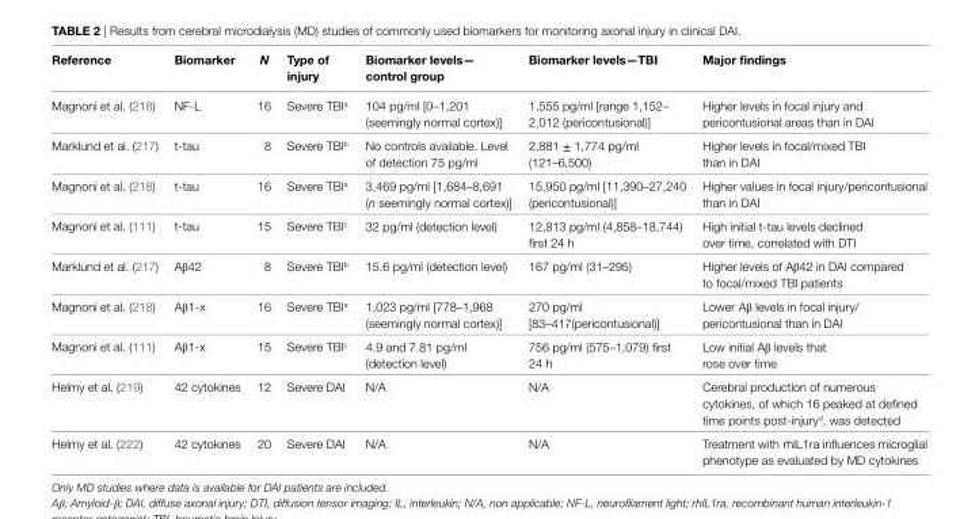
<table><thead><tr><td>Reference</td><td>Biomarker</td><td>N</td><td>Type of injury</td><td>Biomarker levels— control group</td><td>Biomarker levels—TBi</td><td>Major findings</td></tr></thead><tbody><tr><td>Magnoni et al. (218)</td><td>NF-L</td><td>16</td><td>Severe TBI<sup>a</sup></td><td>104 pg/ml [0–1,201 (seemingly normal cortex)]</td><td>1,555 pg/ml [range 1,152– 2,012 (pericontusional)]</td><td>Higher levels in focal injury and pericontusional areas than in DAI</td></tr><tr><td>Marklund et al. (217)</td><td>t-tau</td><td>8</td><td>Severe TBI<sup>b</sup></td><td>No controls available. Level of detection 75 pg/ml</td><td>2,881 ± 1,774 pg/ml (121–6,500)</td><td>Higher levels in focal/mixed TBI than in DAI</td></tr><tr><td>Magnoni et al. (218)</td><td>t-tau</td><td>16</td><td>Severe TBI<sup>a</sup></td><td>3,469 pg/ml [1,684–8,691 (n seemingly normal cortex)]</td><td>15,950 pg/ml [11,390–27,240 (pericontusional)]</td><td>Higher values in focal injury/pericontusional than in DAI</td></tr><tr><td>Magnoni et al. (111)</td><td>t-tau</td><td>15</td><td>Severe TBI<sup>c</sup></td><td>32 pg/ml (detection level)</td><td>12,813 pg/ml (4,858–18,744) first 24 h</td><td>High initial t-tau levels declined over time, correlated with DTI</td></tr><tr><td>Marklund et al. (217)</td><td>Aβ42</td><td>8</td><td>Severe TBI<sup>b</sup></td><td>15.6 pg/ml (detection level)</td><td>167 pg/ml (31–295)</td><td>Higher levels of Aβ42 in DAI compared to focal/mixed TBI patients</td></tr><tr><td>Magnoni et al. (218)</td><td>Aβ1-x</td><td>16</td><td>Severe TBI<sup>a</sup></td><td>1,023 pg/ml [778–1,968 (seemingly normal cortex)]</td><td>270 pg/ml [83–417(pericontusional)]</td><td>Lower Aβ levels in focal injury/ pericontusional than in DAI</td></tr><tr><td>Magnoni et al. (111)</td><td>Aβ1-x</td><td>15</td><td>Severe TBI<sup>c</sup></td><td>4.9 and 7.81 pg/ml (detection level)</td><td>756 pg/ml (575–1,079) first 24 h</td><td>Low initial Aβ levels that rose over time</td></tr><tr><td>Helmy et al. (219)</td><td>42 cytokines</td><td>12</td><td>Severe DAI</td><td>N/A</td><td>N/A</td><td>Cerebral production of numerous cytokines, of which 16 peaked at defined time points post-injury<sup>d</sup>, was detected</td></tr><tr><td>Helmy et al. (222)</td><td>42 cytokines</td><td>20</td><td>Severe DAI</td><td>N/A</td><td>N/A</td><td>Treatment with rhIL1ra influences microglial phenotype as evaluated by MD cytokines</td></tr></tbody></table>